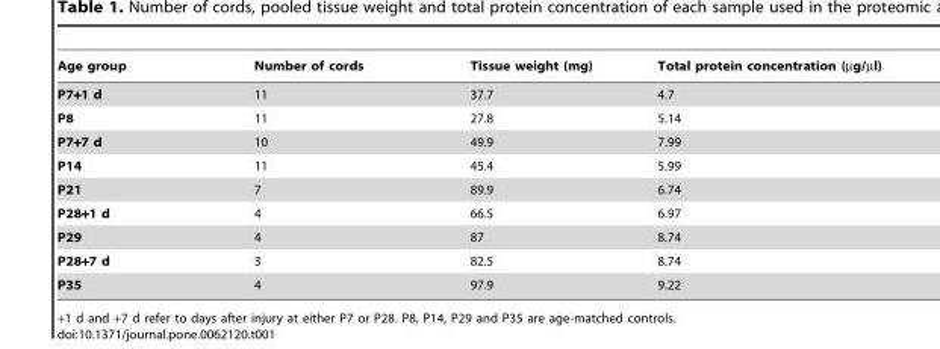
<table><thead><tr><td>Age group</td><td>Number of cords</td><td>Tissue weight (mg)</td><td>Total protein concentration (µg/µl)</td></tr></thead><tbody><tr><td>P7+1 d</td><td>11</td><td>37.7</td><td>4.7</td></tr><tr><td>P8</td><td>11</td><td>27.8</td><td>5.14</td></tr><tr><td>P7+7 d</td><td>10</td><td>49.9</td><td>7.99</td></tr><tr><td>P14</td><td>11</td><td>45.4</td><td>5.99</td></tr><tr><td>P21</td><td>7</td><td>89.9</td><td>6.74</td></tr><tr><td>P28+1 d</td><td>4</td><td>66.5</td><td>6.97</td></tr><tr><td>P29</td><td>4</td><td>87</td><td>8.74</td></tr><tr><td>P28+7 d</td><td>3</td><td>82.5</td><td>8.74</td></tr><tr><td>P35</td><td>4</td><td>97.9</td><td>9.22</td></tr></tbody></table>